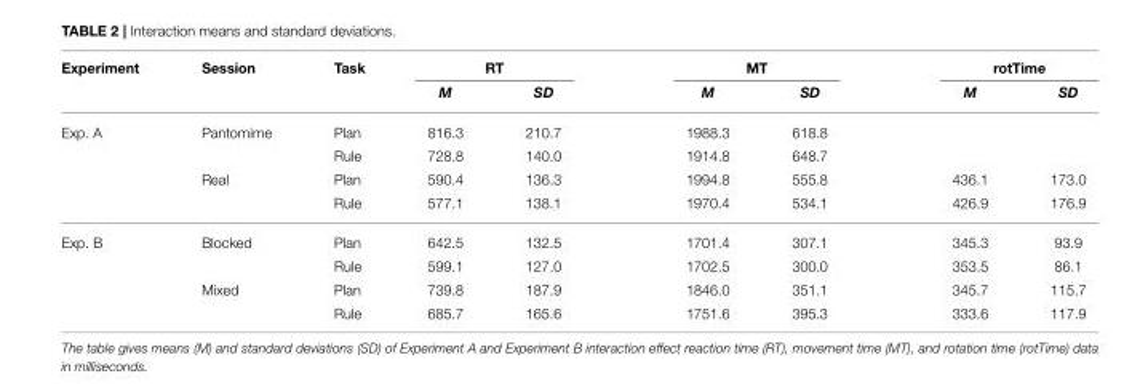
<table><thead><tr><td rowspan="2">Experiment</td><td rowspan="2">Session</td><td rowspan="2">Task</td><td colspan="2">RT</td><td colspan="2">MT</td><td colspan="2">rotTime</td></tr><tr><td>M</td><td>SD</td><td>M</td><td>SD</td><td>M</td><td>SD</td></tr></thead><tbody><tr><td rowspan="4">Exp. A</td><td>Pantomime</td><td>Plan</td><td>816.3</td><td>210.7</td><td>1988.3</td><td>618.8</td><td></td><td></td></tr><tr><td></td><td>Rule</td><td>728.8</td><td>140.0</td><td>1914.8</td><td>648.7</td><td></td><td></td></tr><tr><td>Real</td><td>Plan</td><td>590.4</td><td>136.3</td><td>1994.8</td><td>555.8</td><td>436.1</td><td>173.0</td></tr><tr><td></td><td>Rule</td><td>577.1</td><td>138.1</td><td>1970.4</td><td>534.1</td><td>426.9</td><td>176.9</td></tr><tr><td rowspan="4">Exp. B</td><td>Blocked</td><td>Plan</td><td>642.5</td><td>132.5</td><td>1701.4</td><td>307.1</td><td>345.3</td><td>93.9</td></tr><tr><td></td><td>Rule</td><td>599.1</td><td>127.0</td><td>1702.5</td><td>300.0</td><td>353.5</td><td>86.1</td></tr><tr><td>Mixed</td><td>Plan</td><td>739.8</td><td>187.9</td><td>1846.0</td><td>351.1</td><td>345.7</td><td>115.7</td></tr><tr><td></td><td>Rule</td><td>685.7</td><td>165.6</td><td>1751.6</td><td>395.3</td><td>333.6</td><td>117.9</td></tr></tbody></table>